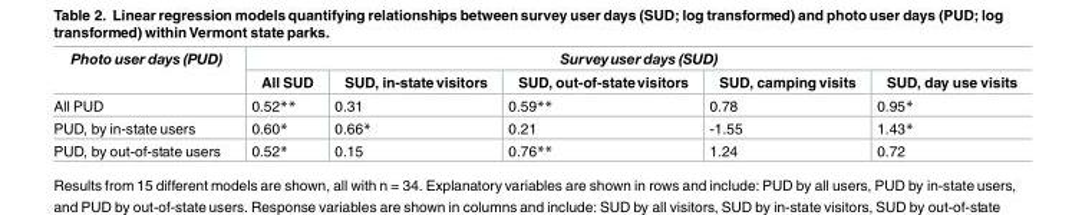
<table><thead><tr><td rowspan="2">Photo user days (PUD)</td><td colspan="5">Surveyuser days (SUD)</td></tr><tr><td>All SUD</td><td>SUD, in-state visitors</td><td>SUD, out-of-statevisitors</td><td>SUD, camping visits</td><td>SUD, day use visits</td></tr></thead><tbody><tr><td>All PUD</td><td>0.52**</td><td>0.31</td><td>0.59**</td><td>0.78</td><td>0.95*</td></tr><tr><td>PUD, by in-state users</td><td>0.60*</td><td>0.66*</td><td>0.21</td><td>-1.55</td><td>1.43*</td></tr><tr><td>PUD, by out-of-state users</td><td>0.52*</td><td>0.15</td><td>0.76**</td><td>1.24</td><td>0.72</td></tr></tbody></table>